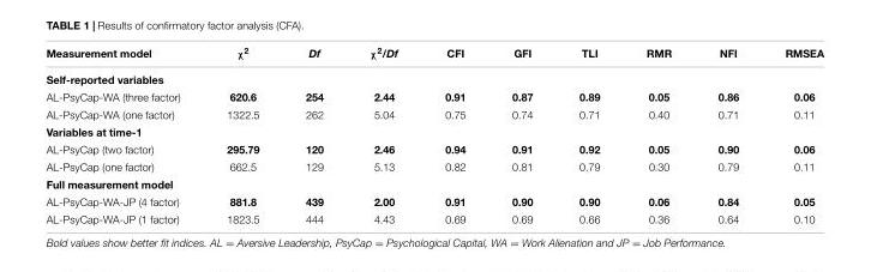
<table><thead><tr><td>Measurement model</td><td>χ<sup>2</sup></td><td>Df</td><td>χ<sup>2</sup>/Df</td><td>CFI</td><td>GFI</td><td>TLI</td><td>RMR</td><td>NFI</td><td>RMSEA</td></tr></thead><tbody><tr><td colspan="10">Self-reported variables</td></tr><tr><td>AL-PsyCap-WA (three factor)</td><td>620.6</td><td>254</td><td>2.44</td><td>0.91</td><td>0.87</td><td>0.89</td><td>0.05</td><td>0.86</td><td>0.06</td></tr><tr><td>AL-PsyCap-WA (one factor)</td><td>1322.5</td><td>262</td><td>5.04</td><td>0.75</td><td>0.74</td><td>0.71</td><td>0.40</td><td>0.71</td><td>0.11</td></tr><tr><td colspan="10">Variables at time-1</td></tr><tr><td>AL-PsyCap (two factor)</td><td>295.79</td><td>120</td><td>2.46</td><td>0.94</td><td>0.91</td><td>0.92</td><td>0.05</td><td>0.90</td><td>0.06</td></tr><tr><td>AL-PsyCap (one factor)</td><td>662.5</td><td>129</td><td>5.13</td><td>0.82</td><td>0.81</td><td>0.79</td><td>0.30</td><td>0.79</td><td>0.11</td></tr><tr><td colspan="10">Full measurement model</td></tr><tr><td>AL-PsyCap-WA-JP (4 factor)</td><td>881.8</td><td>439</td><td>2.00</td><td>0.91</td><td>0.90</td><td>0.90</td><td>0.06</td><td>0.84</td><td>0.05</td></tr><tr><td>AL-PsyCap-WA-JP (1 factor)</td><td>1823.5</td><td>444</td><td>4.43</td><td>0.69</td><td>0.69</td><td>0.66</td><td>0.36</td><td>0.64</td><td>0.10</td></tr></tbody></table>